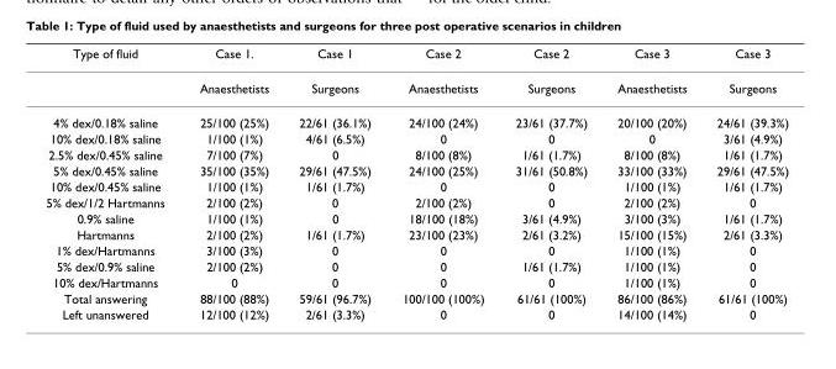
<table><thead><tr><td>Type of fluid</td><td>Case 1.</td><td>Case 1</td><td>Case 2</td><td>Case 2</td><td>Case 3</td><td>Case 3</td></tr></thead><tbody><tr><td></td><td>Anaesthetists</td><td>Surgeons</td><td>Anaesthetists</td><td>Surgeons</td><td>Anaesthetists</td><td>Surgeons</td></tr><tr><td>4% dex/0.18% saline</td><td>25/100 (25%)</td><td>22/61 (36.1%)</td><td>24/100 (24%)</td><td>23/61 (37.7%)</td><td>20/100 (20%)</td><td>24/61 (39.3%)</td></tr><tr><td>10% dex/0.18% saline</td><td>1/100 (1%)</td><td>4/61 (6.5%)</td><td>0</td><td>0</td><td>0</td><td>3/61 (4.9%)</td></tr><tr><td>2.5% dex/0.45% saline</td><td>7/100 (7%)</td><td>0</td><td>8/100 (8%)</td><td>1/61 (1.7%)</td><td>8/100 (8%)</td><td>1/61 (1.7%)</td></tr><tr><td>5% dex/0.45% saline</td><td>35/100 (35%)</td><td>29/61 (47.5%)</td><td>24/100 (25%)</td><td>31/61 (50.8%)</td><td>33/100 (33%)</td><td>29/61 (47.5%)</td></tr><tr><td>10% dex/0.45% saline</td><td>1/100 (1%)</td><td>1/61 (1.7%)</td><td>0</td><td>0</td><td>1/100 (1%)</td><td>1/61 (1.7%)</td></tr><tr><td>5% dex/1/2 Hartmanns</td><td>2/100 (2%)</td><td>0</td><td>2/100 (2%)</td><td>0</td><td>2/100 (2%)</td><td>0</td></tr><tr><td>0.9% saline</td><td>1/100 (1%)</td><td>0</td><td>18/100 (18%)</td><td>3/61 (4.9%)</td><td>3/100 (3%)</td><td>1/61 (1.7%)</td></tr><tr><td>Hartmanns</td><td>2/100 (2%)</td><td>1/61 (1.7%)</td><td>23/100 (23%)</td><td>2/61 (3.2%)</td><td>15/100 (15%)</td><td>2/61 (3.3%)</td></tr><tr><td>1% dex/Hartmanns</td><td>3/100 (3%)</td><td>0</td><td>0</td><td>0</td><td>1/100 (1%)</td><td>0</td></tr><tr><td>5% dex/0.9% saline</td><td>2/100 (2%)</td><td>0</td><td>0</td><td>1/61 (1.7%)</td><td>1/100 (1%)</td><td>0</td></tr><tr><td>10% dex/Hartmanns</td><td>0</td><td>0</td><td>0</td><td>0</td><td>1/100 (1%)</td><td>0</td></tr><tr><td>Total answering</td><td>88/100 (88%)</td><td>59/61 (96.7%)</td><td>100/100 (100%)</td><td>61/61 (100%)</td><td>86/100 (86%)</td><td>61/61 (100%)</td></tr><tr><td>Left unanswered</td><td>12/100 (12%)</td><td>2/61 (3.3%)</td><td>0</td><td>0</td><td>14/100 (14%)</td><td>0</td></tr></tbody></table>